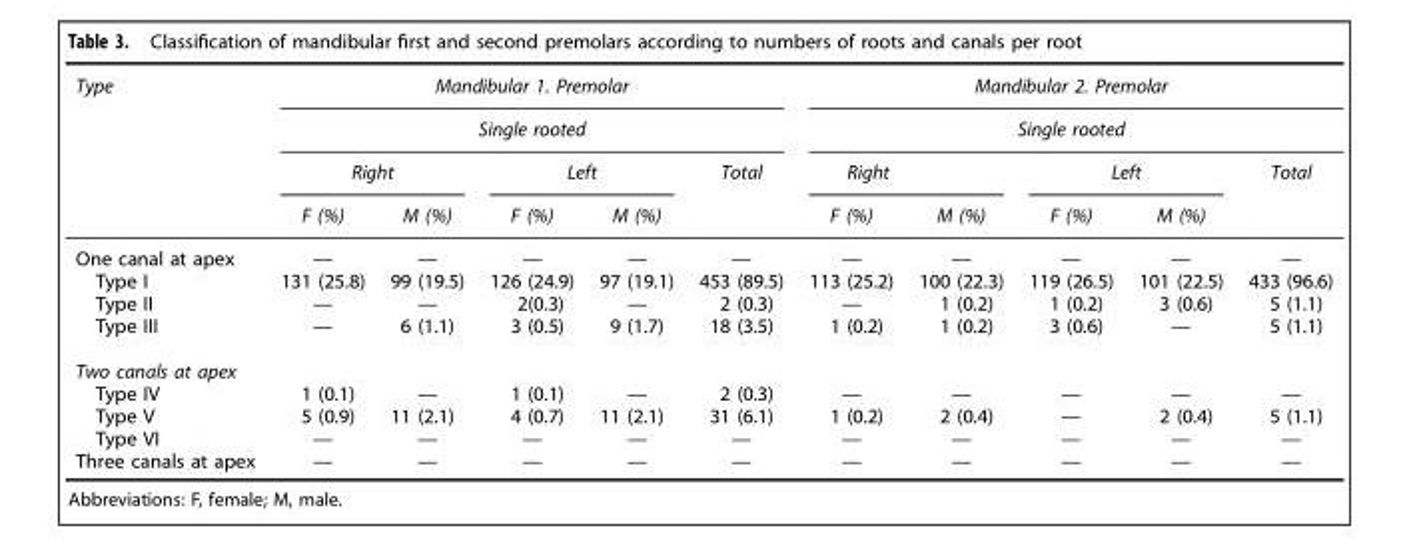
<table><thead><tr><td rowspan="4">Type</td><td rowspan="2" colspan="5">Mandibular 1. Premolar Single rooted</td><td rowspan="2" colspan="5">Mandibular 2. Premolar Single rooted</td></tr><tr></tr><tr><td colspan="2">Right</td><td colspan="2">Left</td><td rowspan="2">Total</td><td colspan="2">Right</td><td colspan="2">Left</td><td rowspan="2">Total</td></tr><tr><td>F (%)</td><td>M (%)</td><td>F (%)</td><td>M (%)</td><td>F (%)</td><td>M (%)</td><td>F (%)</td><td>M (%)</td></tr></thead><tbody><tr><td>One canal at apex</td><td>—</td><td>—</td><td>—</td><td>—</td><td>—</td><td>—</td><td>—</td><td>—</td><td>—</td><td>—</td></tr><tr><td>Type I</td><td>131 (25.8)</td><td>99 (19.5)</td><td>126 (24.9)</td><td>97 (19.1)</td><td>453 (89.5)</td><td>113 (25.2)</td><td>100 (22.3)</td><td>119 (26.5)</td><td>101 (22.5)</td><td>433 (96.6)</td></tr><tr><td>Type II</td><td>—</td><td>—</td><td>2(0.3)</td><td>—</td><td>2 (0.3)</td><td>—</td><td>1 (0.2)</td><td>1 (0.2)</td><td>3 (0.6)</td><td>5 (1.1)</td></tr><tr><td>Type III</td><td>—</td><td>6 (1.1)</td><td>3 (0.5)</td><td>9 (1.7)</td><td>18 (3.5)</td><td>1 (0.2)</td><td>1 (0.2)</td><td>3 (0.6)</td><td>—</td><td>5 (1.1)</td></tr><tr><td colspan="11">Two canals at apex</td></tr><tr><td>Type IV</td><td>1 (0.1)</td><td>—</td><td>1 (0.1)</td><td>—</td><td>2 (0.3)</td><td>—</td><td>—</td><td>—</td><td>—</td><td>—</td></tr><tr><td>Type V</td><td>5 (0.9)</td><td>11 (2.1)</td><td>4 (0.7)</td><td>11 (2.1)</td><td>31 (6.1)</td><td>1 (0.2)</td><td>2 (0.4)</td><td>—</td><td>2 (0.4)</td><td>5 (1.1)</td></tr><tr><td>Type VI</td><td>—</td><td>—</td><td>—</td><td>—</td><td>—</td><td>—</td><td>—</td><td>—</td><td>—</td><td>—</td></tr><tr><td>Three canals at apex</td><td>—</td><td>—</td><td>—</td><td>—</td><td>—</td><td>—</td><td>—</td><td>—</td><td>—</td><td>—</td></tr></tbody></table>